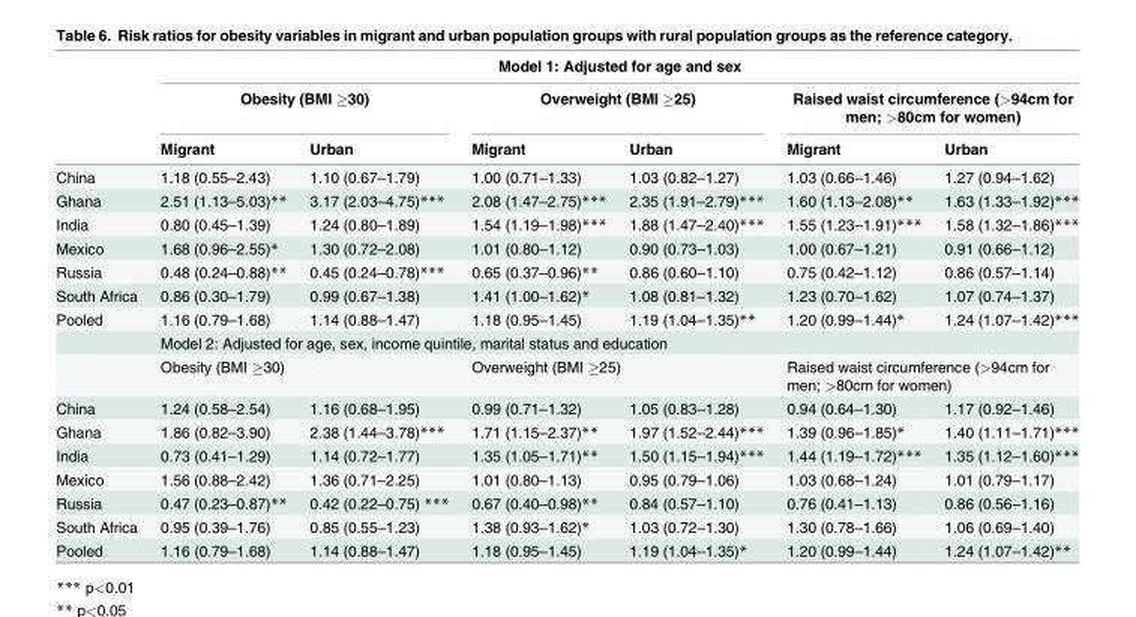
<table><thead><tr><td rowspan="3"></td><td colspan="6">Model 1: Adjusted for age and sex</td></tr><tr><td colspan="2">Obesity (BMI ≥30)</td><td colspan="2">Overweight (BMI ≥25)</td><td colspan="2">Raised waist circumference (&gt;94cm for men; &gt;80cm for women)</td></tr><tr><td>Migrant</td><td>Urban</td><td>Migrant</td><td>Urban</td><td>Migrant</td><td>Urban</td></tr></thead><tbody><tr><td>China</td><td>1.18 (0.55–2.43)</td><td>1.10 (0.67–1.79)</td><td>1.00 (0.71–1.33)</td><td>1.03 (0.82–1.27)</td><td>1.03 (0.66–1.46)</td><td>1.27 (0.94–1.62)</td></tr><tr><td>Ghana</td><td>2.51 (1.13–5.03)**</td><td>3.17 (2.03–4.75)***</td><td>2.08 (1.47–2.75)***</td><td>2.35 (1.91–2.79)***</td><td>1.60 (1.13–2.08)**</td><td>1.63 (1.33–1.92)***</td></tr><tr><td>India</td><td>0.80 (0.45–1.39)</td><td>1.24 (0.80–1.89)</td><td>1.54 (1.19–1.98)***</td><td>1.88 (1.47–2.40)***</td><td>1.55 (1.23–1.91)***</td><td>1.58 (1.32–1.86)***</td></tr><tr><td>Mexico</td><td>1.68 (0.96–2.55)*</td><td>1.30 (0.72–2.08)</td><td>1.01 (0.80–1.12)</td><td>0.90 (0.73–1.03)</td><td>1.00 (0.67–1.21)</td><td>0.91 (0.66–1.12)</td></tr><tr><td>Russia</td><td>0.48 (0.24–0.88)**</td><td>0.45 (0.24–0.78)***</td><td>0.65 (0.37–0.96)**</td><td>0.86 (0.60–1.10)</td><td>0.75 (0.42–1.12)</td><td>0.86 (0.57–1.14)</td></tr><tr><td>South Africa</td><td>0.86 (0.30–1.79)</td><td>0.99 (0.67–1.38)</td><td>1.41 (1.00–1.62)*</td><td>1.08 (0.81–1.32)</td><td>1.23 (0.70–1.62)</td><td>1.07 (0.74–1.37)</td></tr><tr><td rowspan="3">Pooled</td><td>1.16 (0.79–1.68)</td><td>1.14 (0.88–1.47)</td><td>1.18 (0.95–1.45)</td><td>1.19 (1.04–1.35)**</td><td>1.20 (0.99–1.44)*</td><td>1.24 (1.07–1.42)***</td></tr><tr><td colspan="6">Model 2: Adjusted for age, sex, income quintile, marital status and education</td></tr><tr><td colspan="2">Obesity (BMI ≥30)</td><td colspan="2">Overweight (BMI ≥25)</td><td colspan="2">Raised waist circumference (&gt;94cm for men; &gt;80cm for women)</td></tr><tr><td>China</td><td>1.24 (0.58–2.54)</td><td>1.16 (0.68–1.95)</td><td>0.99 (0.71–1.32)</td><td>1.05 (0.83–1.28)</td><td>0.94 (0.64–1.30)</td><td>1.17 (0.92–1.46)</td></tr><tr><td>Ghana</td><td>1.86 (0.82–3.90)</td><td>2.38 (1.44–3.78)***</td><td>1.71 (1.15–2.37)**</td><td>1.97 (1.52–2.44)***</td><td>1.39 (0.96–1.85)*</td><td>1.40 (1.11–1.71)***</td></tr><tr><td>India</td><td>0.73 (0.41–1.29)</td><td>1.14 (0.72–1.77)</td><td>1.35 (1.05–1.71)**</td><td>1.50 (1.15–1.94)***</td><td>1.44 (1.19–1.72)***</td><td>1.35 (1.12–1.60)***</td></tr><tr><td>Mexico</td><td>1.56 (0.88–2.42)</td><td>1.36 (0.71–2.25)</td><td>1.01 (0.80–1.13)</td><td>0.95 (0.79–1.06)</td><td>1.03 (0.68–1.24)</td><td>1.01 (0.79–1.17)</td></tr><tr><td>Russia</td><td>0.47 (0.23–0.87)**</td><td>0.42 (0.22–0.75) ***</td><td>0.67 (0.40–0.98)**</td><td>0.84 (0.57–1.10)</td><td>0.76 (0.41–1.13)</td><td>0.86 (0.56–1.16)</td></tr><tr><td>South Africa</td><td>0.95 (0.39–1.76)</td><td>0.85 (0.55–1.23)</td><td>1.38 (0.93–1.62)*</td><td>1.03 (0.72–1.30)</td><td>1.30 (0.78–1.66)</td><td>1.06 (0.69–1.40)</td></tr><tr><td>Pooled</td><td>1.16 (0.79–1.68)</td><td>1.14 (0.88–1.47)</td><td>1.18 (0.95–1.45)</td><td>1.19 (1.04–1.35)*</td><td>1.20 (0.99–1.44)</td><td>1.24 (1.07–1.42)**</td></tr></tbody></table>